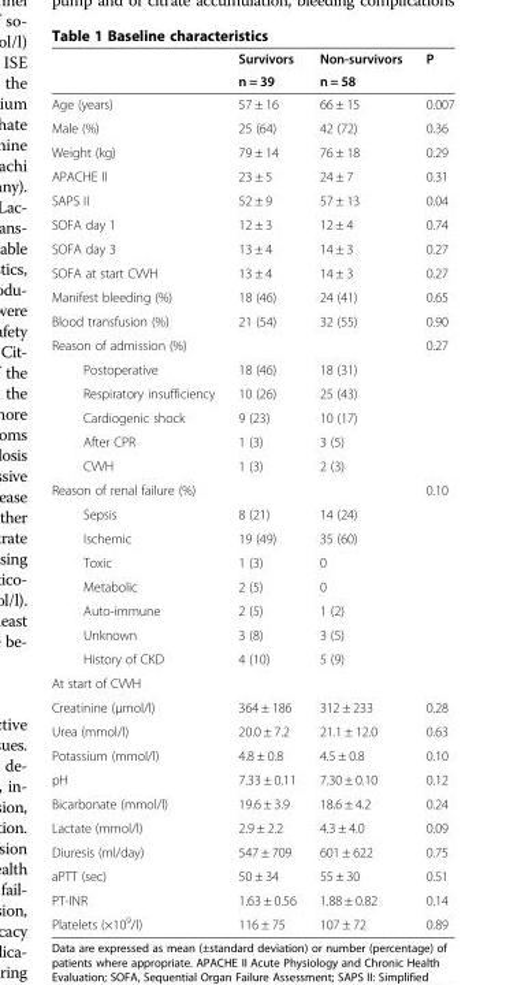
<table><thead><tr><td rowspan="2"></td><td rowspan="2">Survivors n = 39</td><td rowspan="2">Non-survivors n = 58</td><td rowspan="2">P</td></tr><tr></tr></thead><tbody><tr><td>Age (years)</td><td>57 ± 16</td><td>66 ± 15</td><td>0.007</td></tr><tr><td>Male (%)</td><td>25 (64)</td><td>42 (72)</td><td>0.36</td></tr><tr><td>Weight (kg)</td><td>79 ± 14</td><td>76 ± 18</td><td>0.29</td></tr><tr><td>APACHE II</td><td>23 ± 5</td><td>24 ± 7</td><td>0.31</td></tr><tr><td>SAPS II</td><td>52 ± 9</td><td>57 ± 13</td><td>0.04</td></tr><tr><td>SOFA day 1</td><td>12 ± 3</td><td>12 ± 4</td><td>0.74</td></tr><tr><td>SOFA day 3</td><td>13 ± 4</td><td>14 ± 3</td><td>0.27</td></tr><tr><td>SOFA at start CVVH</td><td>13 ± 4</td><td>14 ± 3</td><td>0.27</td></tr><tr><td>Manifest bleeding (%)</td><td>18 (46)</td><td>24 (41)</td><td>0.65</td></tr><tr><td>Blood transfusion (%)</td><td>21 (54)</td><td>32 (55)</td><td>0.90</td></tr><tr><td colspan="3">Reason of admission (%)</td><td rowspan="6">0.27</td></tr><tr><td>Postoperative</td><td>18 (46)</td><td>18 (31)</td></tr><tr><td>Respiratory insufficiency</td><td>10 (26)</td><td>25 (43)</td></tr><tr><td>Cardiogenic shock</td><td>9 (23)</td><td>10 (17)</td></tr><tr><td>After CPR</td><td>1 (3)</td><td>3 (5)</td></tr><tr><td>CVVH</td><td>1 (3)</td><td>2 (3)</td></tr><tr><td colspan="3">Reason of renal failure (%)</td><td rowspan="8">0.10</td></tr><tr><td>Sepsis</td><td>8 (21)</td><td>14 (24)</td></tr><tr><td>Ischemic</td><td>19 (49)</td><td>35 (60)</td></tr><tr><td>Toxic</td><td>1 (3)</td><td>0</td></tr><tr><td>Metabolic</td><td>2 (5)</td><td>0</td></tr><tr><td>Auto-immune</td><td>2 (5)</td><td>1 (2)</td></tr><tr><td>Unknown</td><td>3 (8)</td><td>3 (5)</td></tr><tr><td>History of CKD</td><td>4 (10)</td><td>5 (9)</td></tr><tr><td colspan="4">At start of CVVH</td></tr><tr><td>Creatinine (μmol/l)</td><td>364 ± 186</td><td>312 ± 233</td><td>0.28</td></tr><tr><td>Urea (mmol/l)</td><td>20.0 ± 7.2</td><td>21.1 ± 12.0</td><td>0.63</td></tr><tr><td>Potassium (mmol/l)</td><td>4.8 ± 0.8</td><td>4.5 ± 0.8</td><td>0.10</td></tr><tr><td>pH</td><td>7.33 ± 0.11</td><td>7.30 ± 0.10</td><td>0.12</td></tr><tr><td>Bicarbonate (mmol/l)</td><td>19.6 ± 3.9</td><td>18.6 ± 4.2</td><td>0.24</td></tr><tr><td>Lactate (mmol/l)</td><td>2.9 ± 2.2</td><td>4.3 ± 4.0</td><td>0.09</td></tr><tr><td>Diuresis (ml/day)</td><td>547 ± 709</td><td>601 ± 622</td><td>0.75</td></tr><tr><td>aPTT (sec)</td><td>50 ± 34</td><td>55 ± 30</td><td>0.51</td></tr><tr><td>PT-INR</td><td>1.63 ± 0.56</td><td>1.88 ± 0.82</td><td>0.14</td></tr><tr><td>Platelets (×10<sup>9</sup>/l)</td><td>116 ± 75</td><td>107 ± 72</td><td>0.89</td></tr></tbody></table>